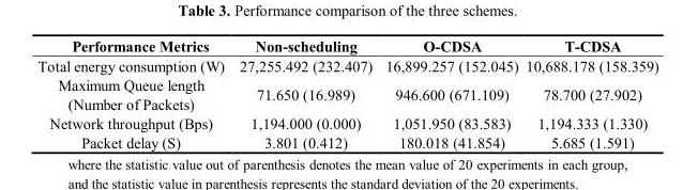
<table><thead><tr><td>Performance Metrics</td><td>Non-scheduling</td><td>O-CDSA</td><td>T-CDSA</td></tr></thead><tbody><tr><td>Total energy consumption (W)</td><td>27,255.492 (232.407)</td><td>16,899.257 (152.045)</td><td>10,688.178 (158.359)</td></tr><tr><td>Maximum Queue length (Number of Packets)</td><td>71.650 (16.989)</td><td>946.600 (671.109)</td><td>78.700 (27.902)</td></tr><tr><td>Network throughput (Bps)</td><td>1,194.000 (0.000)</td><td>1,051.950 (83.583)</td><td>1,194.333 (1.330)</td></tr><tr><td>Packet delay (S)</td><td>3.801 (0.412)</td><td>180.018 (41.854)</td><td>5.685 (1.591)</td></tr></tbody></table>